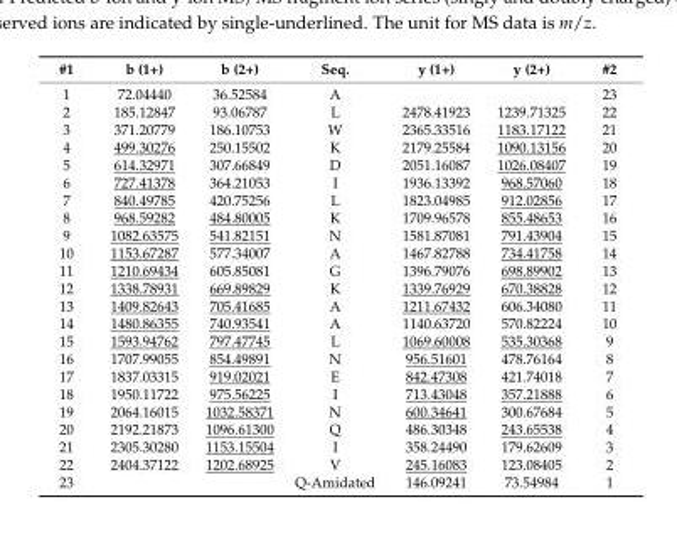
<table><thead><tr><td>#1</td><td>b (1+)</td><td>b (2+)</td><td>Seq.</td><td>y (1+)</td><td>y (2+)</td><td>#2</td></tr></thead><tbody><tr><td>1</td><td>72.04440</td><td>36.52584</td><td>A</td><td></td><td></td><td>23</td></tr><tr><td>2</td><td>185.12847</td><td>93.06787</td><td>L</td><td>2478.41923</td><td>1239.71325</td><td>22</td></tr><tr><td>3</td><td>371.20779</td><td>186.10753</td><td>W</td><td>2365.33516</td><td>1183.17122</td><td>21</td></tr><tr><td>4</td><td>499.30276</td><td>250.15502</td><td>K</td><td>2179.25584</td><td>1090.13156</td><td>20</td></tr><tr><td>5</td><td>614.32971</td><td>307.66849</td><td>D</td><td>2051.16087</td><td>1026.08407</td><td>19</td></tr><tr><td>6</td><td>727.41378</td><td>364.21053</td><td>I</td><td>1936.13392</td><td>968.57060</td><td>18</td></tr><tr><td>7</td><td>840.49785</td><td>420.75256</td><td>L</td><td>1823.04985</td><td>912.02856</td><td>17</td></tr><tr><td>8</td><td>968.59282</td><td>484.80005</td><td>K</td><td>1709.96578</td><td>855.48653</td><td>16</td></tr><tr><td>9</td><td>1082.63575</td><td>541.82151</td><td>N</td><td>1581.87081</td><td>791.43904</td><td>15</td></tr><tr><td>10</td><td>1153.67287</td><td>577.34007</td><td>A</td><td>1467.82788</td><td>734.41758</td><td>14</td></tr><tr><td>11</td><td>1210.69434</td><td>605.85081</td><td>G</td><td>1396.79076</td><td>698.89902</td><td>13</td></tr><tr><td>12</td><td>1338.78931</td><td>669.89829</td><td>K</td><td>1339.76929</td><td>670.38828</td><td>12</td></tr><tr><td>13</td><td>1409.82643</td><td>705.41685</td><td>A</td><td>1211.67432</td><td>606.34080</td><td>11</td></tr><tr><td>14</td><td>1480.86355</td><td>740.93541</td><td>A</td><td>1140.63720</td><td>570.82224</td><td>10</td></tr><tr><td>15</td><td>1593.94762</td><td>797.47745</td><td>L</td><td>1069.60008</td><td>535.30368</td><td>9</td></tr><tr><td>16</td><td>1707.99055</td><td>854.49891</td><td>N</td><td>956.51601</td><td>478.76164</td><td>8</td></tr><tr><td>17</td><td>1837.03315</td><td>919.02021</td><td>E</td><td>842.47308</td><td>421.74018</td><td>7</td></tr><tr><td>18</td><td>1950.11722</td><td>975.56225</td><td>I</td><td>713.43048</td><td>357.21888</td><td>6</td></tr><tr><td>19</td><td>2064.16015</td><td>1032.58371</td><td>N</td><td>600.34641</td><td>300.67684</td><td>5</td></tr><tr><td>20</td><td>2192.21873</td><td>1096.61300</td><td>Q</td><td>486.30348</td><td>243.65538</td><td>4</td></tr><tr><td>21</td><td>2305.30280</td><td>1153.15504</td><td>I</td><td>358.24490</td><td>179.62609</td><td>3</td></tr><tr><td>22</td><td>2404.37122</td><td>1202.68925</td><td>V</td><td>245.16083</td><td>123.08405</td><td>2</td></tr><tr><td>23</td><td></td><td></td><td>Q-Amidated</td><td>146.09241</td><td>73.54984</td><td>1</td></tr></tbody></table>